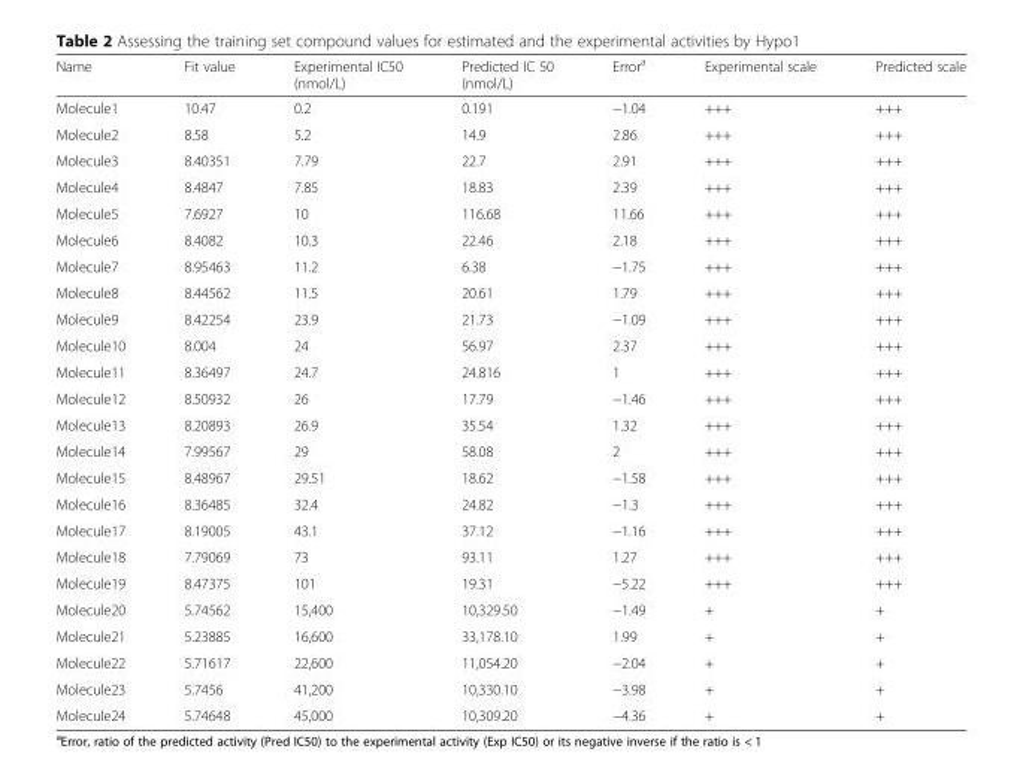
<table><thead><tr><td>Name</td><td>Fit value</td><td>Experimental IC50 (nmol/L)</td><td>Predicted IC 50 (nmol/L)</td><td>Error<sup>a</sup></td><td>Experimental scale</td><td>Predicted scale</td></tr></thead><tbody><tr><td>Molecule1</td><td>10.47</td><td>0.2</td><td>0.191</td><td>−1.04</td><td>+++</td><td>+++</td></tr><tr><td>Molecule2</td><td>8.58</td><td>5.2</td><td>14.9</td><td>2.86</td><td>+++</td><td>+++</td></tr><tr><td>Molecule3</td><td>8.40351</td><td>7.79</td><td>22.7</td><td>2.91</td><td>+++</td><td>+++</td></tr><tr><td>Molecule4</td><td>8.4847</td><td>7.85</td><td>18.83</td><td>2.39</td><td>+++</td><td>+++</td></tr><tr><td>Molecule5</td><td>7.6927</td><td>10</td><td>116.68</td><td>11.66</td><td>+++</td><td>+++</td></tr><tr><td>Molecule6</td><td>8.4082</td><td>10.3</td><td>22.46</td><td>2.18</td><td>+++</td><td>+++</td></tr><tr><td>Molecule7</td><td>8.95463</td><td>11.2</td><td>6.38</td><td>−1.75</td><td>+++</td><td>+++</td></tr><tr><td>Molecule8</td><td>8.44562</td><td>11.5</td><td>20.61</td><td>1.79</td><td>+++</td><td>+++</td></tr><tr><td>Molecule9</td><td>8.42254</td><td>23.9</td><td>21.73</td><td>−1.09</td><td>+++</td><td>+++</td></tr><tr><td>Molecule10</td><td>8.004</td><td>24</td><td>56.97</td><td>2.37</td><td>+++</td><td>+++</td></tr><tr><td>Molecule11</td><td>8.36497</td><td>24.7</td><td>24.816</td><td>1</td><td>+++</td><td>+++</td></tr><tr><td>Molecule12</td><td>8.50932</td><td>26</td><td>17.79</td><td>−1.46</td><td>+++</td><td>+++</td></tr><tr><td>Molecule13</td><td>8.20893</td><td>26.9</td><td>35.54</td><td>1.32</td><td>+++</td><td>+++</td></tr><tr><td>Molecule14</td><td>7.99567</td><td>29</td><td>58.08</td><td>2</td><td>+++</td><td>+++</td></tr><tr><td>Molecule15</td><td>8.48967</td><td>29.51</td><td>18.62</td><td>−1.58</td><td>+++</td><td>+++</td></tr><tr><td>Molecule16</td><td>8.36485</td><td>32.4</td><td>24.82</td><td>−1.3</td><td>+++</td><td>+++</td></tr><tr><td>Molecule17</td><td>8.19005</td><td>43.1</td><td>37.12</td><td>−1.16</td><td>+++</td><td>+++</td></tr><tr><td>Molecule18</td><td>7.79069</td><td>73</td><td>93.11</td><td>1.27</td><td>+++</td><td>+++</td></tr><tr><td>Molecule19</td><td>8.47375</td><td>101</td><td>19.31</td><td>−5.22</td><td>+++</td><td>+++</td></tr><tr><td>Molecule20</td><td>5.74562</td><td>15,400</td><td>10,329.50</td><td>−1.49</td><td>+</td><td>+</td></tr><tr><td>Molecule21</td><td>5.23885</td><td>16,600</td><td>33,178.10</td><td>1.99</td><td>+</td><td>+</td></tr><tr><td>Molecule22</td><td>5.71617</td><td>22,600</td><td>11,054.20</td><td>−2.04</td><td>+</td><td>+</td></tr><tr><td>Molecule23</td><td>5.7456</td><td>41,200</td><td>10,330.10</td><td>−3.98</td><td>+</td><td>+</td></tr><tr><td>Molecule24</td><td>5.74648</td><td>45,000</td><td>10,309.20</td><td>−4.36</td><td>+</td><td>+</td></tr></tbody></table>